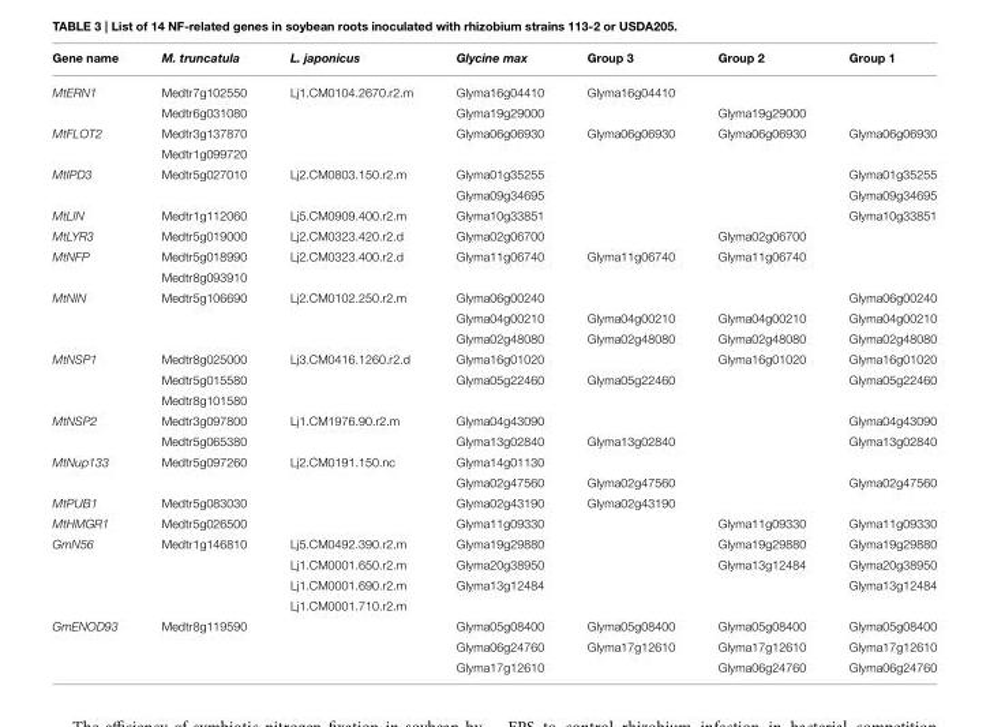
<table><thead><tr><td>Gene name</td><td>M. truncatula</td><td>L. japonicus</td><td>Glycine max</td><td>Group 3</td><td>Group 2</td><td>Group 1</td></tr></thead><tbody><tr><td rowspan="2">MtERN1</td><td>Medtr7g102550</td><td>Lj1.CM0104.2670.r2.m</td><td>Glyma16g04410</td><td>Glyma16g04410</td><td></td><td></td></tr><tr><td>Medtr6g031080</td><td></td><td>Glyma19g29000</td><td></td><td>Glyma19g29000</td><td></td></tr><tr><td rowspan="2">MtFLOT2</td><td>Medtr3g137870</td><td></td><td>Glyma06g06930</td><td>Glyma06g06930</td><td>Glyma06g06930</td><td>Glyma06g06930</td></tr><tr><td>Medtr1g099720</td><td></td><td></td><td></td><td></td><td></td></tr><tr><td rowspan="2">MtIPD3</td><td>Medtr5g027010</td><td>Lj2.CM0803.150.r2.m</td><td>Glyma01g35255</td><td></td><td></td><td>Glyma01g35255</td></tr><tr><td></td><td></td><td>Glyma09g34695</td><td></td><td></td><td>Glyma09g34695</td></tr><tr><td>MtLIN</td><td>Medtr1g112060</td><td>Lj5.CM0909.400.r2.m</td><td>Glyma10g33851</td><td></td><td></td><td>Glyma10g33851</td></tr><tr><td>MtLYR3</td><td>Medtr5g019000</td><td>Lj2.CM0323.420.r2.d</td><td>Glyma02g06700</td><td></td><td>Glyma02g06700</td><td></td></tr><tr><td rowspan="2">MtNFP</td><td>Medtr5g018990</td><td>Lj2.CM0323.400.r2.d</td><td>Glyma11g06740</td><td>Glyma11g06740</td><td>Glyma11g06740</td><td></td></tr><tr><td>Medtr8g093910</td><td></td><td></td><td></td><td></td><td></td></tr><tr><td rowspan="3">MtNIN</td><td>Medtr5g106690</td><td>Lj2.CM0102.250.r2.m</td><td>Glyma06g00240</td><td></td><td></td><td>Glyma06g00240</td></tr><tr><td></td><td></td><td>Glyma04g00210</td><td>Glyma04g00210</td><td>Glyma04g00210</td><td>Glyma04g00210</td></tr><tr><td></td><td></td><td>Glyma02g48080</td><td>Glyma02g48080</td><td>Glyma02g48080</td><td>Glyma02g48080</td></tr><tr><td rowspan="3">MtNSP1</td><td>Medtr8g025000</td><td>Lj3.CM0416.1260.r2.d</td><td>Glyma16g01020</td><td></td><td>Glyma16g01020</td><td>Glyma16g01020</td></tr><tr><td>Medtr5g015580</td><td></td><td>Glyma05g22460</td><td>Glyma05g22460</td><td></td><td>Glyma05g22460</td></tr><tr><td>Medtr8g101580</td><td></td><td></td><td></td><td></td><td></td></tr><tr><td rowspan="2">MtNSP2</td><td>Medtr3g097800</td><td>Lj1.CM1976.90.r2.m</td><td>Glyma04g43090</td><td></td><td></td><td>Glyma04g43090</td></tr><tr><td>Medtr5g065380</td><td></td><td>Glyma13g02840</td><td>Glyma13g02840</td><td></td><td>Glyma13g02840</td></tr><tr><td rowspan="2">MtNup133</td><td>Medtr5g097260</td><td>Lj2.CM0191.150.nc</td><td>Glyma14g01130</td><td></td><td></td><td></td></tr><tr><td></td><td></td><td>Glyma02g47560</td><td>Glyma02g47560</td><td></td><td>Glyma02g47560</td></tr><tr><td>MtPUB1</td><td>Medtr5g083030</td><td></td><td>Glyma02g43190</td><td>Glyma02g43190</td><td></td><td></td></tr><tr><td>MtHMGR1</td><td>Medtr5g026500</td><td></td><td>Glyma11g09330</td><td></td><td>Glyma11g09330</td><td>Glyma11g09330</td></tr><tr><td rowspan="4">GmN56</td><td>Medtr1g146810</td><td>Lj5.CM0492.390.r2.m</td><td>Glyma19g29880</td><td></td><td>Glyma19g29880</td><td>Glyma19g29880</td></tr><tr><td></td><td>Lj1.CM0001.650.r2.m</td><td>Glyma20g38950</td><td></td><td>Glyma13g12484</td><td>Glyma20g38950</td></tr><tr><td></td><td>Lj1.CM0001.690.r2.m</td><td>Glyma13g12484</td><td></td><td></td><td>Glyma13g12484</td></tr><tr><td></td><td>Lj1.CM0001.710.r2.m</td><td></td><td></td><td></td><td></td></tr><tr><td rowspan="3">GmENOD93</td><td>Medtr8g119590</td><td></td><td>Glyma05g08400</td><td>Glyma05g08400</td><td>Glyma05g08400</td><td>Glyma05g08400</td></tr><tr><td></td><td></td><td>Glyma06g24760</td><td>Glyma17g12610</td><td>Glyma17g12610</td><td>Glyma17g12610</td></tr><tr><td></td><td></td><td>Glyma17g12610</td><td></td><td>Glyma06g24760</td><td>Glyma06g24760</td></tr></tbody></table>